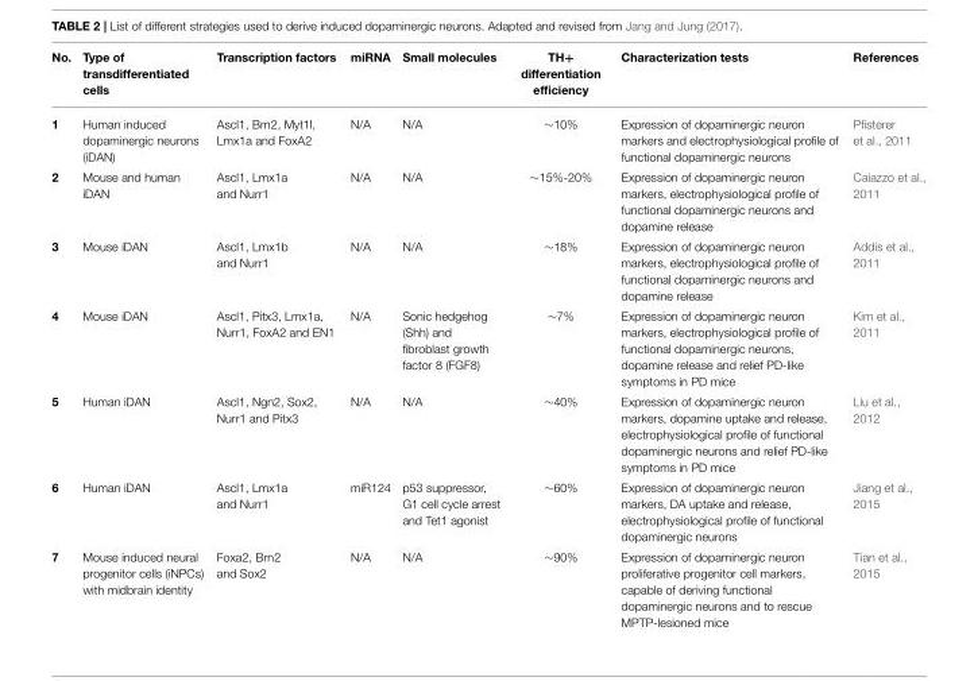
<table><thead><tr><td>No.</td><td>Type of transdifferentiated cells</td><td>Transcription factors</td><td>miRNA</td><td>Small molecules</td><td>TH+ differentiation efficiency</td><td>Characterization tests</td><td>References</td></tr></thead><tbody><tr><td>1</td><td>Human induced dopaminergic neurons (iDAN)</td><td>Ascl1, Brn2, Myt1l, Lmx1a and FoxA2</td><td>N/A</td><td>N/A</td><td>∼10%</td><td>Expression of dopaminergic neuron markers and electrophysiological profile of functional dopaminergic neurons</td><td>Pfisterer et al., 2011</td></tr><tr><td>2</td><td>Mouse and human iDAN</td><td>Ascl1, Lmx1a and Nurr1</td><td>N/A</td><td>N/A</td><td>∼15%-20%</td><td>Expression of dopaminergic neuron markers, electrophysiological profile of functional dopaminergic neurons and dopamine release</td><td>Caiazzo et al., 2011</td></tr><tr><td>3</td><td>Mouse iDAN</td><td>Ascl1, Lmx1b and Nurr1</td><td>N/A</td><td>N/A</td><td>∼18%</td><td>Expression of dopaminergic neuron markers, electrophysiological profile of functional dopaminergic neurons and dopamine release</td><td>Addis et al., 2011</td></tr><tr><td>4</td><td>Mouse iDAN</td><td>Ascl1, Pitx3, Lmx1a, Nurr1, FoxA2 and EN1</td><td>N/A</td><td>Sonic hedgehog (Shh) and fibroblast growth factor 8 (FGF8)</td><td>∼7%</td><td>Expression of dopaminergic neuron markers, electrophysiological profile of functional dopaminergic neurons, dopamine release and relief PD-like symptoms in PD mice</td><td>Kim et al., 2011</td></tr><tr><td>5</td><td>Human iDAN</td><td>Ascl1, Ngn2, Sox2, Nurr1 and Pitx3</td><td>N/A</td><td>N/A</td><td>∼40%</td><td>Expression of dopaminergic neuron markers, dopamine uptake and release, electrophysiological profile of functional dopaminergic neurons and relief PD-like symptoms in PD mice</td><td>Liu et al., 2012</td></tr><tr><td>6</td><td>Human iDAN</td><td>Ascl1, Lmx1a and Nurr1</td><td>miR124</td><td>p53 suppressor, G1 cell cycle arrest and Tet1 agonist</td><td>∼60%</td><td>Expression of dopaminergic neuron markers, DA uptake and release, electrophysiological profile of functional dopaminergic neurons</td><td>Jiang et al., 2015</td></tr><tr><td>7</td><td>Mouse induced neural progenitor cells (iNPCs) with midbrain identity</td><td>Foxa2, Brn2 and Sox2</td><td>N/A</td><td>N/A</td><td>∼90%</td><td>Expression of dopaminergic neuron proliferative progenitor cell markers, capable of deriving functional dopaminergic neurons and to rescue MPTP-lesioned mice</td><td>Tian et al., 2015</td></tr></tbody></table>